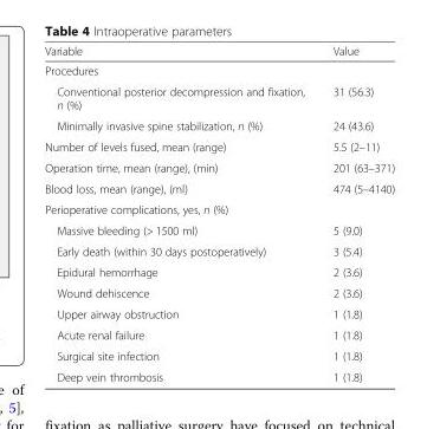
<table><thead><tr><td>Variable</td><td>Value</td></tr></thead><tbody><tr><td colspan="2">Procedures</td></tr><tr><td>Conventional posterior decompression and fixation, n (%)</td><td>31 (56.3)</td></tr><tr><td>Minimally invasive spine stabilization, n (%)</td><td>24 (43.6)</td></tr><tr><td>Number of levels fused, mean (range)</td><td>5.5 (2–11)</td></tr><tr><td>Operation time, mean (range), (min)</td><td>201 (63–371)</td></tr><tr><td>Blood loss, mean (range), (ml)</td><td>474 (5–4140)</td></tr><tr><td colspan="2">Perioperative complications, yes, n (%)</td></tr><tr><td>Massive bleeding (&gt; 1500 ml)</td><td>5 (9.0)</td></tr><tr><td>Early death (within 30 days postoperatively)</td><td>3 (5.4)</td></tr><tr><td>Epidural hemorrhage</td><td>2 (3.6)</td></tr><tr><td>Wound dehiscence</td><td>2 (3.6)</td></tr><tr><td>Upper airway obstruction</td><td>1 (1.8)</td></tr><tr><td>Acute renal failure</td><td>1 (1.8)</td></tr><tr><td>Surgical site infection</td><td>1 (1.8)</td></tr><tr><td>Deep vein thrombosis</td><td>1 (1.8)</td></tr></tbody></table>